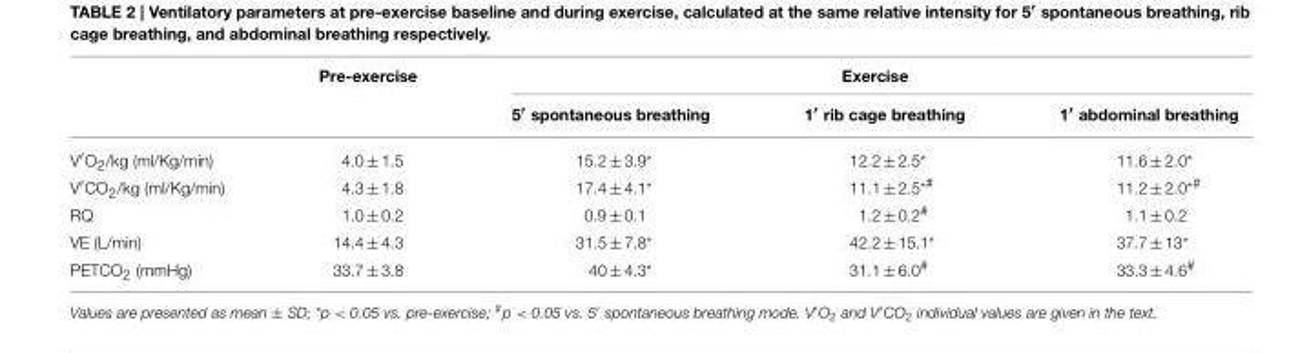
<table><thead><tr><td rowspan="2"></td><td rowspan="2">Pre-exercise</td><td colspan="3">Exercise</td></tr><tr><td>5′ spontaneous breathing</td><td>1′ rib cage breathing</td><td>1′ abdominal breathing</td></tr></thead><tbody><tr><td>V′O<sub>2</sub>/kg (ml/Kg/min)</td><td>4.0 ± 1.5</td><td>15.2 ± 3.9*</td><td>12.2 ± 2.5*</td><td>11.6 ± 2.0*</td></tr><tr><td>V′CO<sub>2</sub>/kg (ml/Kg/min)</td><td>4.3 ± 1.8</td><td>17.4 ± 4.1*</td><td>11.1 ± 2.5<sup>*#</sup></td><td>11.2 ± 2.0<sup>*#</sup></td></tr><tr><td>RQ</td><td>1.0 ± 0.2</td><td>0.9 ± 0.1</td><td>1.2 ± 0.2<sup>#</sup></td><td>1.1 ± 0.2</td></tr><tr><td>VE (L/min)</td><td>14.4 ± 4.3</td><td>31.5 ± 7.8*</td><td>42.2 ± 15.1*</td><td>37.7 ± 13*</td></tr><tr><td>PETCO<sub>2</sub> (mmHg)</td><td>33.7 ± 3.8</td><td>40 ± 4.3*</td><td>31.1 ± 6.0<sup>#</sup></td><td>33.3 ± 4.6<sup>#</sup></td></tr></tbody></table>